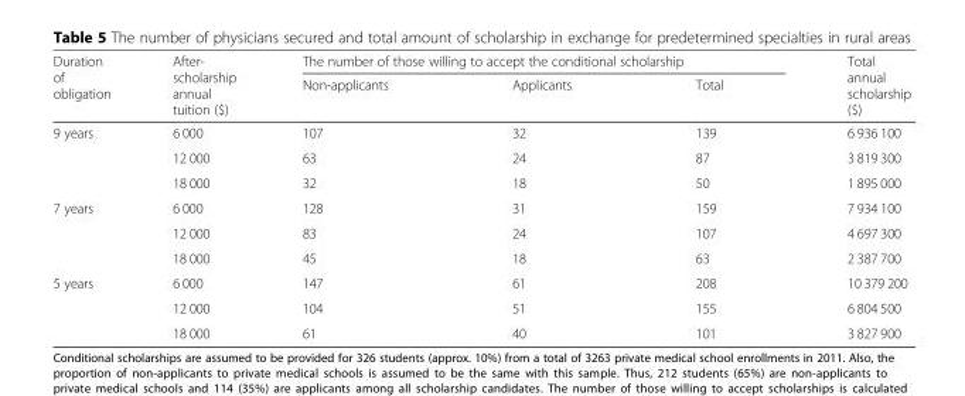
<table><thead><tr><td rowspan="2">Duration of obligation</td><td rowspan="2">After- scholarship annual tuition ($)</td><td colspan="3">The number of those willing to accept the conditional scholarship</td><td rowspan="2">Total annual scholarship ($)</td></tr><tr><td>Non-applicants</td><td>Applicants</td><td>Total</td></tr></thead><tbody><tr><td rowspan="3">9 years</td><td>6 000</td><td>107</td><td>32</td><td>139</td><td>6 936 100</td></tr><tr><td>12 000</td><td>63</td><td>24</td><td>87</td><td>3 819 300</td></tr><tr><td>18 000</td><td>32</td><td>18</td><td>50</td><td>1 895 000</td></tr><tr><td rowspan="3">7 years</td><td>6 000</td><td>128</td><td>31</td><td>159</td><td>7 934 100</td></tr><tr><td>12 000</td><td>83</td><td>24</td><td>107</td><td>4 697 300</td></tr><tr><td>18 000</td><td>45</td><td>18</td><td>63</td><td>2 387 700</td></tr><tr><td rowspan="3">5 years</td><td>6 000</td><td>147</td><td>61</td><td>208</td><td>10 379 200</td></tr><tr><td>12 000</td><td>104</td><td>51</td><td>155</td><td>6 804 500</td></tr><tr><td>18 000</td><td>61</td><td>40</td><td>101</td><td>3 827 900</td></tr></tbody></table>